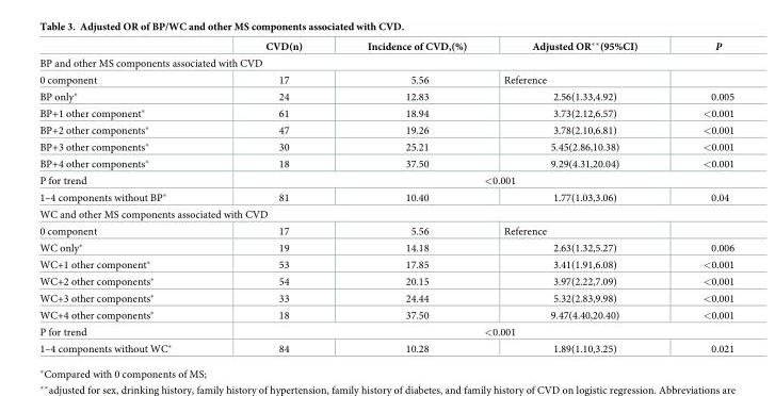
<table><thead><tr><td></td><td>CVD(n)</td><td>Incidence of CVD,(%)</td><td>Adjusted OR**(95%CI)</td><td>P</td></tr></thead><tbody><tr><td colspan="5">BP and other MS components associated with CVD</td></tr><tr><td>0 component</td><td>17</td><td>5.56</td><td>Reference</td><td></td></tr><tr><td>BP only*</td><td>24</td><td>12.83</td><td>2.56(1.33,4.92)</td><td>0.005</td></tr><tr><td>BP+1 other component*</td><td>61</td><td>18.94</td><td>3.73(2.12,6.57)</td><td>&lt;0.001</td></tr><tr><td>BP+2 other components*</td><td>47</td><td>19.26</td><td>3.78(2.10,6.81)</td><td>&lt;0.001</td></tr><tr><td>BP+3 other components*</td><td>30</td><td>25.21</td><td>5.45(2.86,10.38)</td><td>&lt;0.001</td></tr><tr><td>BP+4 other components*</td><td>18</td><td>37.50</td><td>9.29(4.31,20.04)</td><td>&lt;0.001</td></tr><tr><td>P for trend</td><td colspan="4">&lt;0.001</td></tr><tr><td>1–4 components without BP*</td><td>81</td><td>10.40</td><td>1.77(1.03,3.06)</td><td>0.04</td></tr><tr><td colspan="5">WC and other MS components associated with CVD</td></tr><tr><td>0 component</td><td>17</td><td>5.56</td><td>Reference</td><td></td></tr><tr><td>WC only*</td><td>19</td><td>14.18</td><td>2.63(1.32,5.27)</td><td>0.006</td></tr><tr><td>WC+1 other component*</td><td>53</td><td>17.85</td><td>3.41(1.91,6.08)</td><td>&lt;0.001</td></tr><tr><td>WC+2 other components*</td><td>54</td><td>20.15</td><td>3.97(2.22,7.09)</td><td>&lt;0.001</td></tr><tr><td>WC+3 other components*</td><td>33</td><td>24.44</td><td>5.32(2.83,9.98)</td><td>&lt;0.001</td></tr><tr><td>WC+4 other components*</td><td>18</td><td>37.50</td><td>9.47(4.40,20.40)</td><td>&lt;0.001</td></tr><tr><td>P for trend</td><td colspan="4">&lt;0.001</td></tr><tr><td>1–4 components without WC*</td><td>84</td><td>10.28</td><td>1.89(1.10,3.25)</td><td>0.021</td></tr></tbody></table>